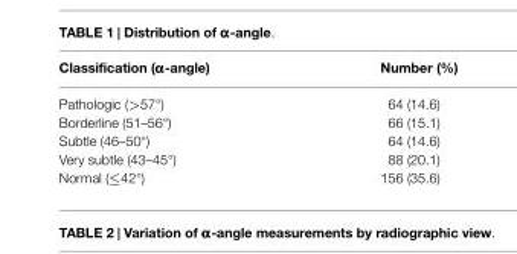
<table><thead><tr><td>Classification (ααα-angle)</td><td>Number (%)</td></tr></thead><tbody><tr><td>Pathologic (&gt;57°)</td><td>64 (14.6)</td></tr><tr><td>Borderline (51–56°)</td><td>66 (15.1)</td></tr><tr><td>Subtle (46–50°)</td><td>64 (14.6)</td></tr><tr><td>Very subtle (43–45°)</td><td>88 (20.1)</td></tr><tr><td>Normal (≤42°)</td><td>156 (35.6)</td></tr></tbody></table>